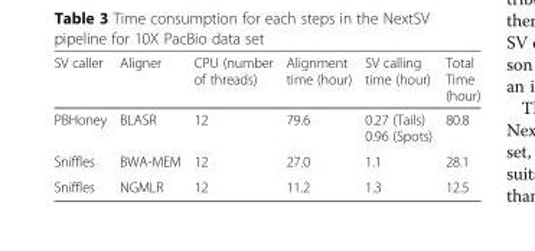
<table><thead><tr><td>SV caller</td><td>Aligner</td><td>CPU (number of threads)</td><td>Alignment time (hour)</td><td>SV calling time (hour)</td><td>Total Time (hour)</td></tr></thead><tbody><tr><td>PBHoney</td><td>BLASR</td><td>12</td><td>79.6</td><td>0.27 (Tails) 0.96 (Spots)</td><td>80.8</td></tr><tr><td>Sniffles</td><td>BWA-MEM</td><td>12</td><td>27.0</td><td>1.1</td><td>28.1</td></tr><tr><td>Sniffles</td><td>NGMLR</td><td>12</td><td>11.2</td><td>1.3</td><td>12.5</td></tr></tbody></table>